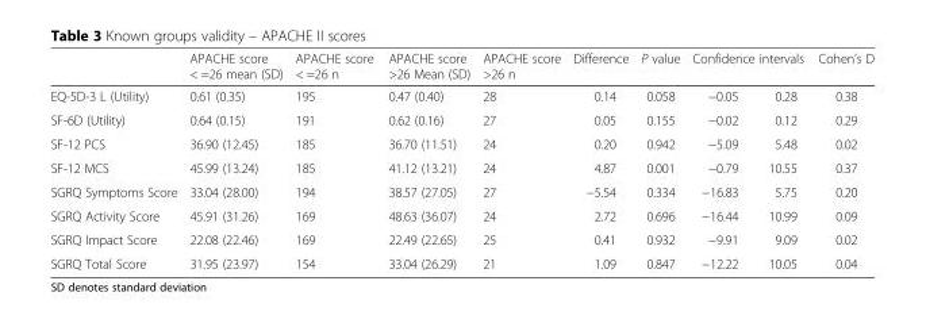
<table><thead><tr><td rowspan="2">EQ-5D-3 L (Utility)</td><td rowspan="2">APACHE score &lt; =26 mean (SD) 0.61 (0.35)</td><td rowspan="2">APACHE score &lt; =26 n 195</td><td rowspan="2">APACHE score &gt;26 Mean (SD) 0.47 (0.40)</td><td rowspan="2">APACHE score &gt;26 n 28</td><td rowspan="2">Difference 0.14</td><td rowspan="2">P value 0.058</td><td colspan="2">Confidence intervals</td><td rowspan="2">Cohen’s D 0.38</td></tr><tr><td>−0.05</td><td>0.28</td></tr></thead><tbody><tr><td>SF-6D (Utility)</td><td>0.64 (0.15)</td><td>191</td><td>0.62 (0.16)</td><td>27</td><td>0.05</td><td>0.155</td><td>−0.02</td><td>0.12</td><td>0.29</td></tr><tr><td>SF-12 PCS</td><td>36.90 (12.45)</td><td>185</td><td>36.70 (11.51)</td><td>24</td><td>0.20</td><td>0.942</td><td>−5.09</td><td>5.48</td><td>0.02</td></tr><tr><td>SF-12 MCS</td><td>45.99 (13.24)</td><td>185</td><td>41.12 (13.21)</td><td>24</td><td>4.87</td><td>0.001</td><td>−0.79</td><td>10.55</td><td>0.37</td></tr><tr><td>SGRQ Symptoms Score</td><td>33.04 (28.00)</td><td>194</td><td>38.57 (27.05)</td><td>27</td><td>−5.54</td><td>0.334</td><td>−16.83</td><td>5.75</td><td>0.20</td></tr><tr><td>SGRQ Activity Score</td><td>45.91 (31.26)</td><td>169</td><td>48.63 (36.07)</td><td>24</td><td>2.72</td><td>0.696</td><td>−16.44</td><td>10.99</td><td>0.09</td></tr><tr><td>SGRQ Impact Score</td><td>22.08 (22.46)</td><td>169</td><td>22.49 (22.65)</td><td>25</td><td>0.41</td><td>0.932</td><td>−9.91</td><td>9.09</td><td>0.02</td></tr><tr><td>SGRQ Total Score</td><td>31.95 (23.97)</td><td>154</td><td>33.04 (26.29)</td><td>21</td><td>1.09</td><td>0.847</td><td>−12.22</td><td>10.05</td><td>0.04</td></tr></tbody></table>